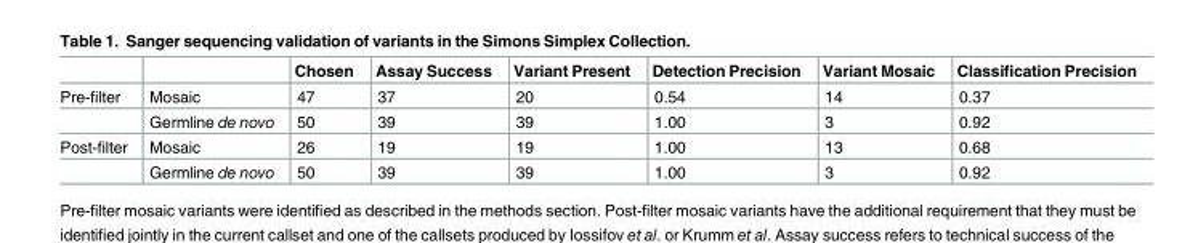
<table><thead><tr><td></td><td></td><td>Chosen</td><td>Assay Success</td><td>Variant Present</td><td>Detection Precision</td><td>Variant Mosaic</td><td>Classification Precision</td></tr></thead><tbody><tr><td rowspan="2">Pre-filter</td><td>Mosaic</td><td>47</td><td>37</td><td>20</td><td>0.54</td><td>14</td><td>0.37</td></tr><tr><td>Germline de novo</td><td>50</td><td>39</td><td>39</td><td>1.00</td><td>3</td><td>0.92</td></tr><tr><td rowspan="2">Post-filter</td><td>Mosaic</td><td>26</td><td>19</td><td>19</td><td>1.00</td><td>13</td><td>0.68</td></tr><tr><td>Germline de novo</td><td>50</td><td>39</td><td>39</td><td>1.00</td><td>3</td><td>0.92</td></tr></tbody></table>